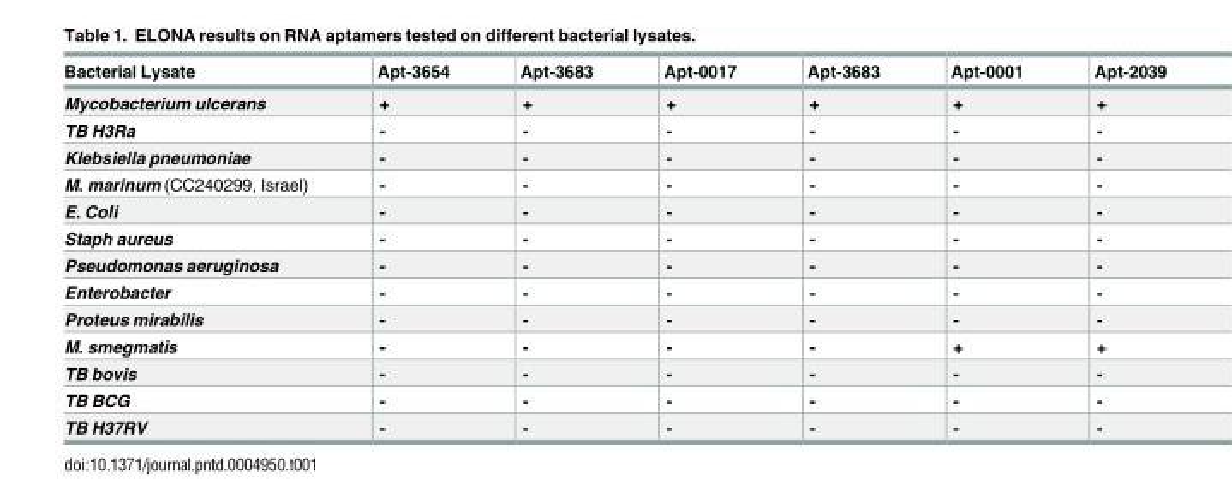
<table><thead><tr><td>Bacterial Lysate</td><td>Apt-3654</td><td>Apt-3683</td><td>Apt-0017</td><td>Apt-3683</td><td>Apt-0001</td><td>Apt-2039</td></tr></thead><tbody><tr><td>Mycobacterium ulcerans</td><td>+</td><td>+</td><td>+</td><td>+</td><td>+</td><td>+</td></tr><tr><td>TB H3Ra</td><td>-</td><td>-</td><td>-</td><td>-</td><td>-</td><td>-</td></tr><tr><td>Klebsiella pneumoniae</td><td>-</td><td>-</td><td>-</td><td>-</td><td>-</td><td>-</td></tr><tr><td>M. marinum (CC240299, Israel)</td><td>-</td><td>-</td><td>-</td><td>-</td><td>-</td><td>-</td></tr><tr><td>E. Coli</td><td>-</td><td>-</td><td>-</td><td>-</td><td>-</td><td>-</td></tr><tr><td>Staph aureus</td><td>-</td><td>-</td><td>-</td><td>-</td><td>-</td><td>-</td></tr><tr><td>Pseudomonas aeruginosa</td><td>-</td><td>-</td><td>-</td><td>-</td><td>-</td><td>-</td></tr><tr><td>Enterobacter</td><td>-</td><td>-</td><td>-</td><td>-</td><td>-</td><td>-</td></tr><tr><td>Proteus mirabilis</td><td>-</td><td>-</td><td>-</td><td>-</td><td>-</td><td>-</td></tr><tr><td>M. smegmatis</td><td>-</td><td>-</td><td>-</td><td>-</td><td>+</td><td>+</td></tr><tr><td>TB bovis</td><td>-</td><td>-</td><td>-</td><td>-</td><td>-</td><td>-</td></tr><tr><td>TB BCG</td><td>-</td><td>-</td><td>-</td><td>-</td><td>-</td><td>-</td></tr><tr><td>TB H37RV</td><td>-</td><td>-</td><td>-</td><td>-</td><td>-</td><td>-</td></tr></tbody></table>